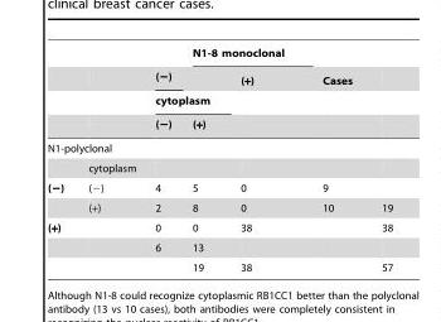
<table><thead><tr><td rowspan="4"></td><td rowspan="4"></td><td rowspan="2">(−)</td><td colspan="2">N1-8 monoclonal</td><td rowspan="4">Cases</td><td rowspan="4"></td></tr><tr><td></td><td rowspan="3">(+)</td></tr><tr><td colspan="2">cytoplasm</td></tr><tr><td>(−)</td><td>(+)</td></tr></thead><tbody><tr><td colspan="7">N1-polyclonal</td></tr><tr><td></td><td>cytoplasm</td><td></td><td></td><td></td><td></td><td></td></tr><tr><td rowspan="2">(−)</td><td>(−)</td><td>4</td><td>5</td><td>0</td><td>9</td><td></td></tr><tr><td>(+)</td><td>2</td><td>8</td><td>0</td><td>10</td><td>19</td></tr><tr><td rowspan="3">(+)</td><td></td><td>0</td><td>0</td><td>38</td><td></td><td>38</td></tr><tr><td></td><td>6</td><td>13</td><td></td><td></td><td></td></tr><tr><td></td><td></td><td>19</td><td>38</td><td></td><td>57</td></tr></tbody></table>